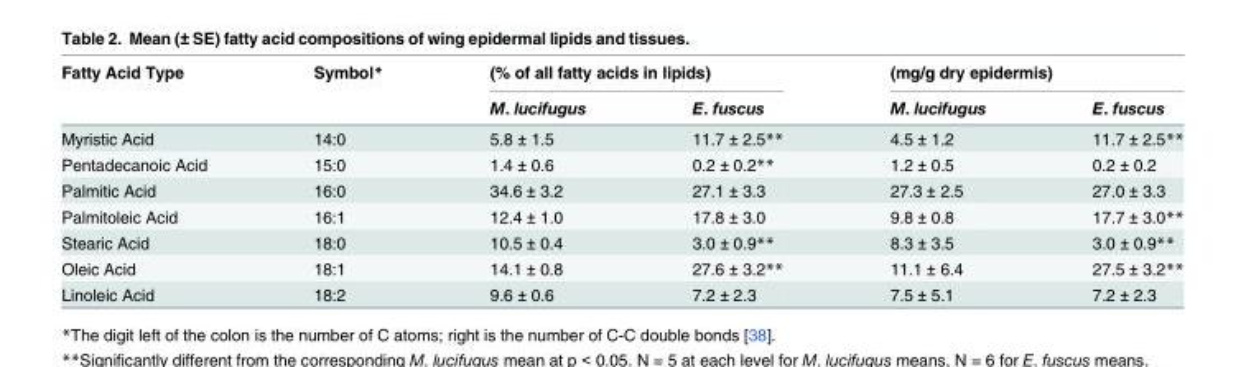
<table><thead><tr><td rowspan="2">Fatty Acid Type</td><td rowspan="2">Symbol*</td><td colspan="2">(% of all fatty acids in lipids)</td><td colspan="2">(mg/g dry epidermis)</td></tr><tr><td>M. lucifugus</td><td>E. fuscus</td><td>M. lucifugus</td><td>E. fuscus</td></tr></thead><tbody><tr><td>Myristic Acid</td><td>14:0</td><td>5.8 ± 1.5</td><td>11.7 ± 2.5**</td><td>4.5 ± 1.2</td><td>11.7 ± 2.5**</td></tr><tr><td>Pentadecanoic Acid</td><td>15:0</td><td>1.4 ± 0.6</td><td>0.2 ± 0.2**</td><td>1.2 ± 0.5</td><td>0.2 ± 0.2</td></tr><tr><td>Palmitic Acid</td><td>16:0</td><td>34.6 ± 3.2</td><td>27.1 ± 3.3</td><td>27.3 ± 2.5</td><td>27.0 ± 3.3</td></tr><tr><td>Palmitoleic Acid</td><td>16:1</td><td>12.4 ± 1.0</td><td>17.8 ± 3.0</td><td>9.8 ± 0.8</td><td>17.7 ± 3.0**</td></tr><tr><td>Stearic Acid</td><td>18:0</td><td>10.5 ± 0.4</td><td>3.0 ± 0.9**</td><td>8.3 ± 3.5</td><td>3.0 ± 0.9**</td></tr><tr><td>Oleic Acid</td><td>18:1</td><td>14.1 ± 0.8</td><td>27.6 ± 3.2**</td><td>11.1 ± 6.4</td><td>27.5 ± 3.2**</td></tr><tr><td>Linoleic Acid</td><td>18:2</td><td>9.6 ± 0.6</td><td>7.2 ± 2.3</td><td>7.5 ± 5.1</td><td>7.2 ± 2.3</td></tr></tbody></table>